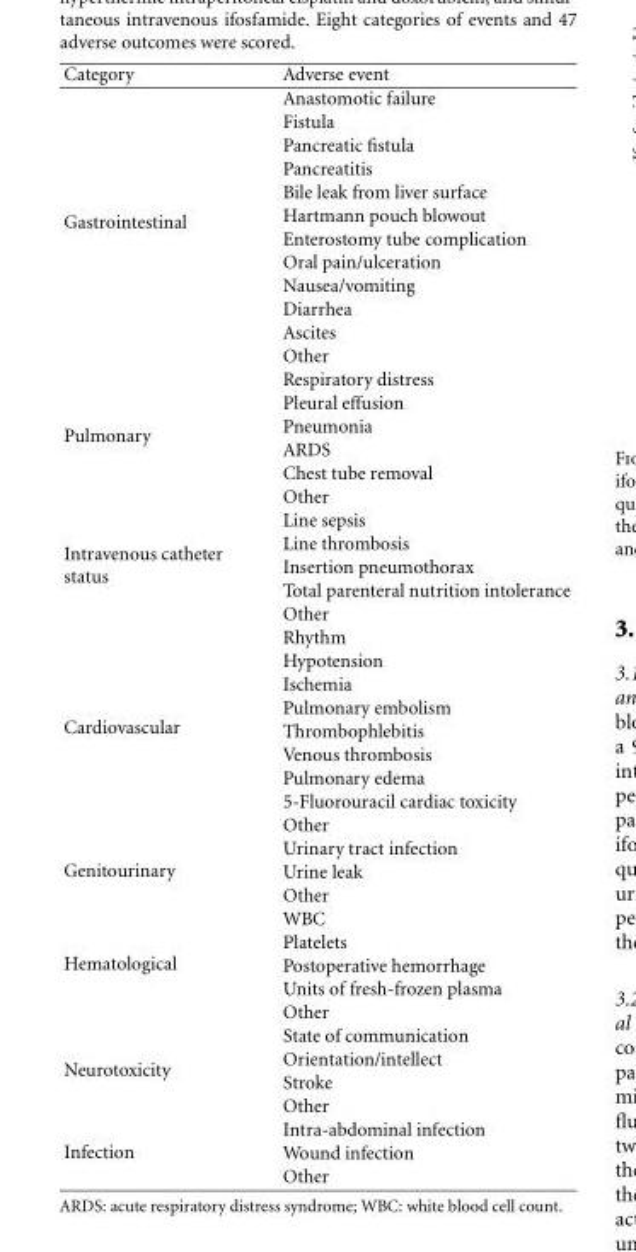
<table><thead><tr><td>Category</td><td>Adverse event</td></tr></thead><tbody><tr><td rowspan="12">Gastrointestinal</td><td>Anastomotic failure</td></tr><tr><td>Fistula</td></tr><tr><td>Pancreatic fistula</td></tr><tr><td>Pancreatitis</td></tr><tr><td>Bile leak from liver surface</td></tr><tr><td>Hartmann pouch blowout</td></tr><tr><td>Enterostomy tube complication</td></tr><tr><td>Oral pain/ulceration</td></tr><tr><td>Nausea/vomiting</td></tr><tr><td>Diarrhea</td></tr><tr><td>Ascites</td></tr><tr><td>Other</td></tr><tr><td rowspan="6">Pulmonary</td><td>Respiratory distress</td></tr><tr><td>Pleural effusion</td></tr><tr><td>Pneumonia</td></tr><tr><td>ARDS</td></tr><tr><td>Chest tube removal</td></tr><tr><td>Other</td></tr><tr><td rowspan="5">Intravenous catheter status</td><td>Line sepsis</td></tr><tr><td>Line thrombosis</td></tr><tr><td>Insertion pneumothorax</td></tr><tr><td>Total parenteral nutrition intolerance</td></tr><tr><td>Other</td></tr><tr><td rowspan="9">Cardiovascular</td><td>Rhythm</td></tr><tr><td>Hypotension</td></tr><tr><td>Ischemia</td></tr><tr><td>Pulmonary embolism</td></tr><tr><td>Thrombophlebitis</td></tr><tr><td>Venous thrombosis</td></tr><tr><td>Pulmonary edema</td></tr><tr><td>5-Fluorouracil cardiac toxicity</td></tr><tr><td>Other</td></tr><tr><td rowspan="3">Genitourinary</td><td>Urinary tract infection</td></tr><tr><td>Urine leak</td></tr><tr><td>Other</td></tr><tr><td rowspan="5">Hematological</td><td>WBC</td></tr><tr><td>Platelets</td></tr><tr><td>Postoperative hemorrhage</td></tr><tr><td>Units of fresh-frozen plasma</td></tr><tr><td>Other</td></tr><tr><td rowspan="4">Neurotoxicity</td><td>State of communication</td></tr><tr><td>Orientation/intellect</td></tr><tr><td>Stroke</td></tr><tr><td>Other</td></tr><tr><td rowspan="3">Infection</td><td>Intra-abdominal infection</td></tr><tr><td>Wound infection</td></tr><tr><td>Other</td></tr></tbody></table>